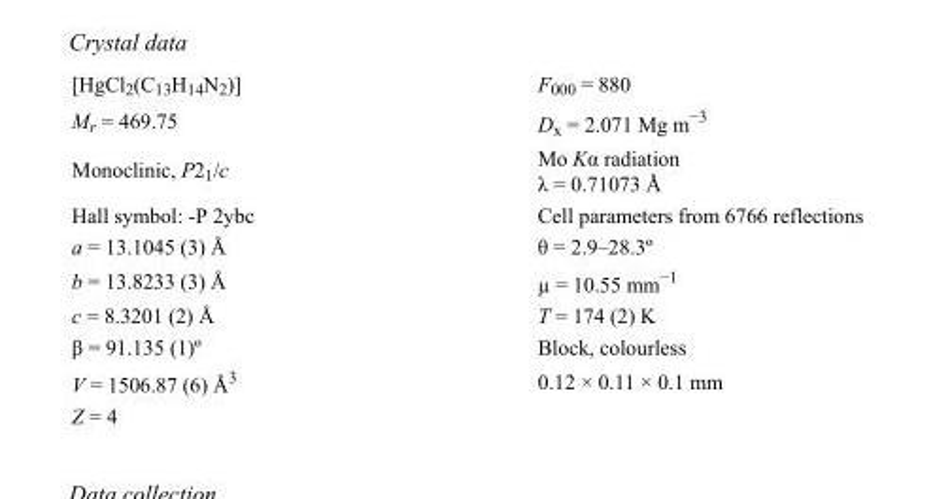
<table><tbody><tr><td>[HgCl<sub>2</sub>(C<sub>13</sub>H<sub>14</sub>N<sub>2</sub>)]</td><td>F000 = 880</td></tr><tr><td>M<sub>r</sub> = 469.75</td><td>D<sub>x</sub> = 2.071 Mg m<sup>−3</sup></td></tr><tr><td>Monoclinic, P2<sub>1</sub>/c</td><td>Mo Kα radiation λ = 0.71073 Å</td></tr><tr><td>Hall symbol: -P 2ybc</td><td>Cell parameters from 6766 reflections</td></tr><tr><td>a = 13.1045 (3) Å</td><td>θ = 2.9–28.3º</td></tr><tr><td>b = 13.8233 (3) Å</td><td>µ = 10.55 mm<sup>−1</sup></td></tr><tr><td>c = 8.3201 (2) Å</td><td>T = 174 (2) K</td></tr><tr><td>β = 91.135 (1)º</td><td>Block, colourless</td></tr><tr><td>V = 1506.87 (6) Å<sup>3</sup></td><td>0.12 × 0.11 × 0.1 mm</td></tr><tr><td>Z = 4</td><td></td></tr></tbody></table>